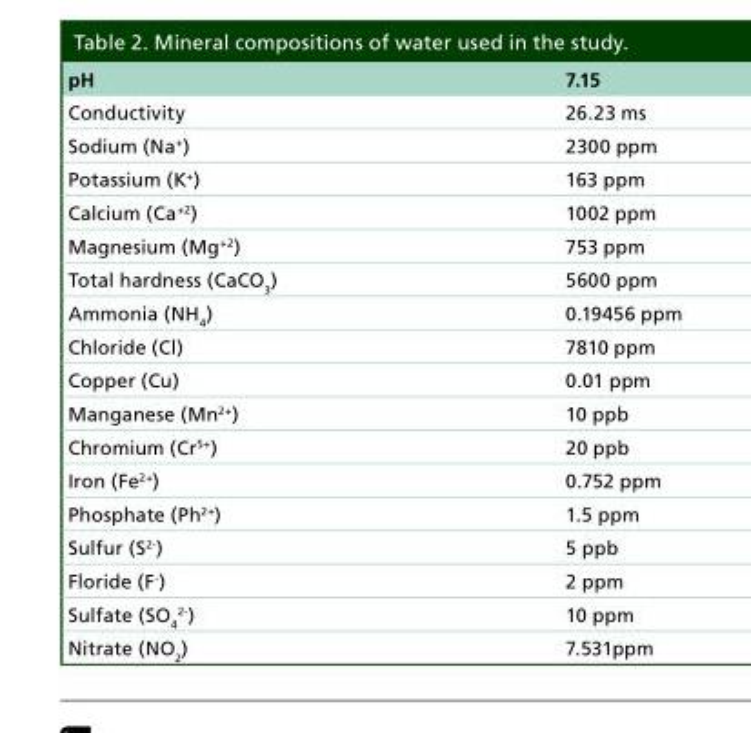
<table><thead><tr><td>pH</td><td>7.15</td></tr></thead><tbody><tr><td>Conductivity</td><td>26.23 ms</td></tr><tr><td>Sodium (Na<sup>+</sup>)</td><td>2300 ppm</td></tr><tr><td>Potassium (K<sup>+</sup>)</td><td>163 ppm</td></tr><tr><td>Calcium (Ca<sup>+2</sup>)</td><td>1002 ppm</td></tr><tr><td>Magnesium (Mg<sup>+2</sup>)</td><td>753 ppm</td></tr><tr><td>Total hardness (CaCO<sub>3</sub>)</td><td>5600 ppm</td></tr><tr><td>Ammonia (NH<sub>4</sub>)</td><td>0.19456 ppm</td></tr><tr><td>Chloride (Cl)</td><td>7810 ppm</td></tr><tr><td>Copper (Cu)</td><td>0.01 ppm</td></tr><tr><td>Manganese (Mn<sup>2+</sup>)</td><td>10 ppb</td></tr><tr><td>Chromium (Cr<sup>5+</sup>)</td><td>20 ppb</td></tr><tr><td>Iron (Fe<sup>2+</sup>)</td><td>0.752 ppm</td></tr><tr><td>Phosphate (Ph<sup>2+</sup>)</td><td>1.5 ppm</td></tr><tr><td>Sulfur (S<sup>2-</sup>)</td><td>5 ppb</td></tr><tr><td>Floride (F<sup>-</sup>)</td><td>2 ppm</td></tr><tr><td>Sulfate (SO<sub>4</sub> <sup>2-</sup>)</td><td>10 ppm</td></tr><tr><td>Nitrate (NO<sub>2</sub>)</td><td>7.531ppm</td></tr></tbody></table>